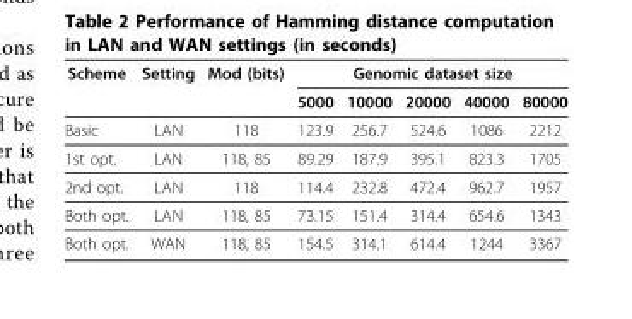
<table><thead><tr><td rowspan="2">Scheme</td><td rowspan="2">Setting</td><td rowspan="2">Mod (bits)</td><td colspan="5">Genomic dataset size</td></tr><tr><td>5000</td><td>10000</td><td>20000</td><td>40000</td><td>80000</td></tr></thead><tbody><tr><td>Basic</td><td>LAN</td><td>118</td><td>123.9</td><td>256.7</td><td>524.6</td><td>1086</td><td>2212</td></tr><tr><td>1st opt.</td><td>LAN</td><td>118, 85</td><td>89.29</td><td>187.9</td><td>395.1</td><td>823.3</td><td>1705</td></tr><tr><td>2nd opt.</td><td>LAN</td><td>118</td><td>114.4</td><td>232.8</td><td>472.4</td><td>962.7</td><td>1957</td></tr><tr><td>Both opt.</td><td>LAN</td><td>118, 85</td><td>73.15</td><td>151.4</td><td>314.4</td><td>654.6</td><td>1343</td></tr><tr><td>Both opt.</td><td>WAN</td><td>118, 85</td><td>154.5</td><td>314.1</td><td>614.4</td><td>1244</td><td>3367</td></tr></tbody></table>